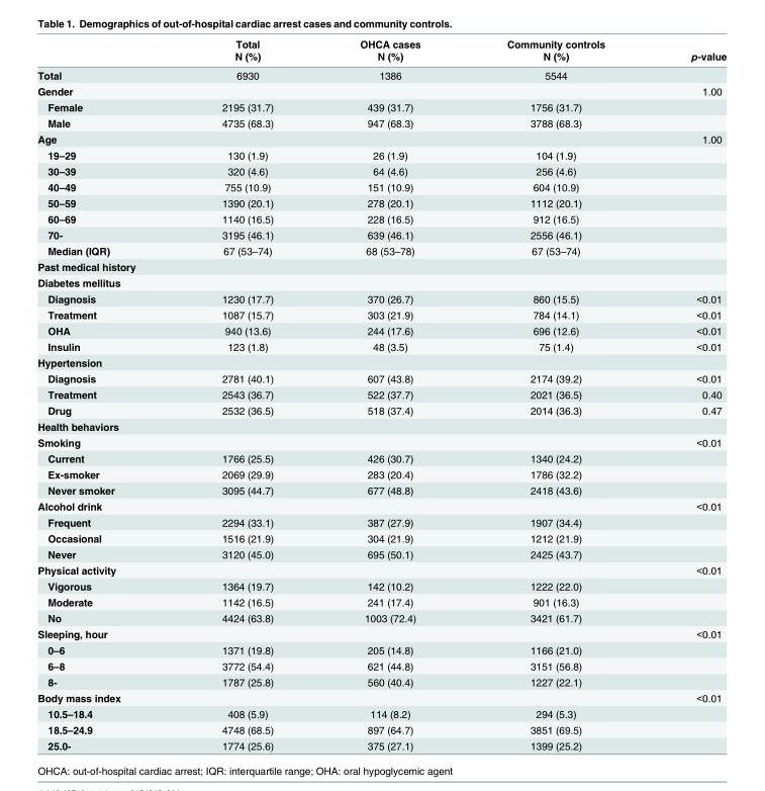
<table><thead><tr><td rowspan="2"></td><td rowspan="2">Total N (%)</td><td rowspan="2">OHCA cases N (%)</td><td rowspan="2">Community controls N (%)</td><td rowspan="2">p-value</td></tr><tr></tr></thead><tbody><tr><td>Total</td><td>6930</td><td>1386</td><td>5544</td><td></td></tr><tr><td>Gender</td><td></td><td></td><td></td><td>1.00</td></tr><tr><td>Female</td><td>2195 (31.7)</td><td>439 (31.7)</td><td>1756 (31.7)</td><td></td></tr><tr><td>Male</td><td>4735 (68.3)</td><td>947 (68.3)</td><td>3788 (68.3)</td><td></td></tr><tr><td>Age</td><td></td><td></td><td></td><td>1.00</td></tr><tr><td>19–29</td><td>130 (1.9)</td><td>26 (1.9)</td><td>104 (1.9)</td><td></td></tr><tr><td>30–39</td><td>320 (4.6)</td><td>64 (4.6)</td><td>256 (4.6)</td><td></td></tr><tr><td>40–49</td><td>755 (10.9)</td><td>151 (10.9)</td><td>604 (10.9)</td><td></td></tr><tr><td>50–59</td><td>1390 (20.1)</td><td>278 (20.1)</td><td>1112 (20.1)</td><td></td></tr><tr><td>60–69</td><td>1140 (16.5)</td><td>228 (16.5)</td><td>912 (16.5)</td><td></td></tr><tr><td>70-</td><td>3195 (46.1)</td><td>639 (46.1)</td><td>2556 (46.1)</td><td></td></tr><tr><td>Median (IQR)</td><td>67 (53–74)</td><td>68 (53–78)</td><td>67 (53–74)</td><td></td></tr><tr><td colspan="5">Past medical history</td></tr><tr><td colspan="5">Diabetes mellitus</td></tr><tr><td>Diagnosis</td><td>1230 (17.7)</td><td>370 (26.7)</td><td>860 (15.5)</td><td>&lt;0.01</td></tr><tr><td>Treatment</td><td>1087 (15.7)</td><td>303 (21.9)</td><td>784 (14.1)</td><td>&lt;0.01</td></tr><tr><td>OHA</td><td>940 (13.6)</td><td>244 (17.6)</td><td>696 (12.6)</td><td>&lt;0.01</td></tr><tr><td>Insulin</td><td>123 (1.8)</td><td>48 (3.5)</td><td>75 (1.4)</td><td>&lt;0.01</td></tr><tr><td colspan="5">Hypertension</td></tr><tr><td>Diagnosis</td><td>2781 (40.1)</td><td>607 (43.8)</td><td>2174 (39.2)</td><td>&lt;0.01</td></tr><tr><td>Treatment</td><td>2543 (36.7)</td><td>522 (37.7)</td><td>2021 (36.5)</td><td>0.40</td></tr><tr><td>Drug</td><td>2532 (36.5)</td><td>518 (37.4)</td><td>2014 (36.3)</td><td>0.47</td></tr><tr><td colspan="5">Health behaviors</td></tr><tr><td>Smoking</td><td></td><td></td><td></td><td>&lt;0.01</td></tr><tr><td>Current</td><td>1766 (25.5)</td><td>426 (30.7)</td><td>1340 (24.2)</td><td></td></tr><tr><td>Ex-smoker</td><td>2069 (29.9)</td><td>283 (20.4)</td><td>1786 (32.2)</td><td></td></tr><tr><td>Never smoker</td><td>3095 (44.7)</td><td>677 (48.8)</td><td>2418 (43.6)</td><td></td></tr><tr><td>Alcohol drink</td><td></td><td></td><td></td><td>&lt;0.01</td></tr><tr><td>Frequent</td><td>2294 (33.1)</td><td>387 (27.9)</td><td>1907 (34.4)</td><td></td></tr><tr><td>Occasional</td><td>1516 (21.9)</td><td>304 (21.9)</td><td>1212 (21.9)</td><td></td></tr><tr><td>Never</td><td>3120 (45.0)</td><td>695 (50.1)</td><td>2425 (43.7)</td><td></td></tr><tr><td>Physical activity</td><td></td><td></td><td></td><td>&lt;0.01</td></tr><tr><td>Vigorous</td><td>1364 (19.7)</td><td>142 (10.2)</td><td>1222 (22.0)</td><td></td></tr><tr><td>Moderate</td><td>1142 (16.5)</td><td>241 (17.4)</td><td>901 (16.3)</td><td></td></tr><tr><td>No</td><td>4424 (63.8)</td><td>1003 (72.4)</td><td>3421 (61.7)</td><td></td></tr><tr><td>Sleeping, hour</td><td></td><td></td><td></td><td>&lt;0.01</td></tr><tr><td>0–6</td><td>1371 (19.8)</td><td>205 (14.8)</td><td>1166 (21.0)</td><td></td></tr><tr><td>6–8</td><td>3772 (54.4)</td><td>621 (44.8)</td><td>3151 (56.8)</td><td></td></tr><tr><td>8-</td><td>1787 (25.8)</td><td>560 (40.4)</td><td>1227 (22.1)</td><td></td></tr><tr><td>Body mass index</td><td></td><td></td><td></td><td>&lt;0.01</td></tr><tr><td>10.5–18.4</td><td>408 (5.9)</td><td>114 (8.2)</td><td>294 (5.3)</td><td></td></tr><tr><td>18.5–24.9</td><td>4748 (68.5)</td><td>897 (64.7)</td><td>3851 (69.5)</td><td></td></tr><tr><td>25.0-</td><td>1774 (25.6)</td><td>375 (27.1)</td><td>1399 (25.2)</td><td></td></tr></tbody></table>